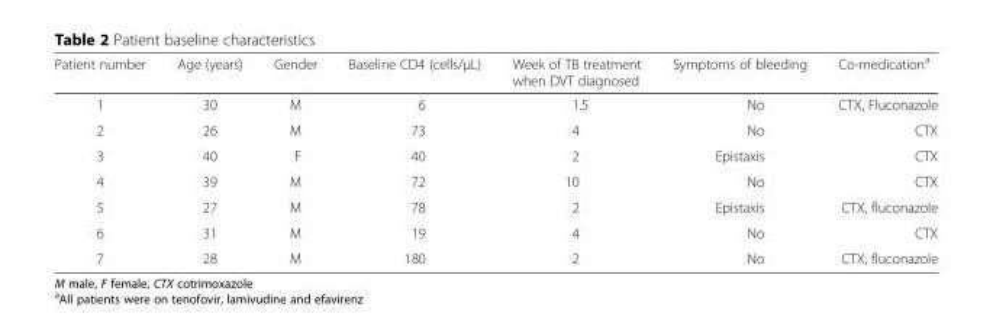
<table><thead><tr><td>Patient number</td><td>Age (years)</td><td>Gender</td><td>Baseline CD4 (cells/μL)</td><td>Week of TB treatment when DVT diagnosed</td><td>Symptoms of bleeding</td><td>Co-medication<sup>a</sup></td></tr></thead><tbody><tr><td>1</td><td>30</td><td>M</td><td>6</td><td>1.5</td><td>No</td><td>CTX, Fluconazole</td></tr><tr><td>2</td><td>26</td><td>M</td><td>73</td><td>4</td><td>No</td><td>CTX</td></tr><tr><td>3</td><td>40</td><td>F</td><td>40</td><td>2</td><td>Epistaxis</td><td>CTX</td></tr><tr><td>4</td><td>39</td><td>M</td><td>72</td><td>10</td><td>No</td><td>CTX</td></tr><tr><td>5</td><td>27</td><td>M</td><td>78</td><td>2</td><td>Epistaxis</td><td>CTX, fluconazole</td></tr><tr><td>6</td><td>31</td><td>M</td><td>19</td><td>4</td><td>No</td><td>CTX</td></tr><tr><td>7</td><td>28</td><td>M</td><td>180</td><td>2</td><td>No</td><td>CTX, fluconazole</td></tr></tbody></table>